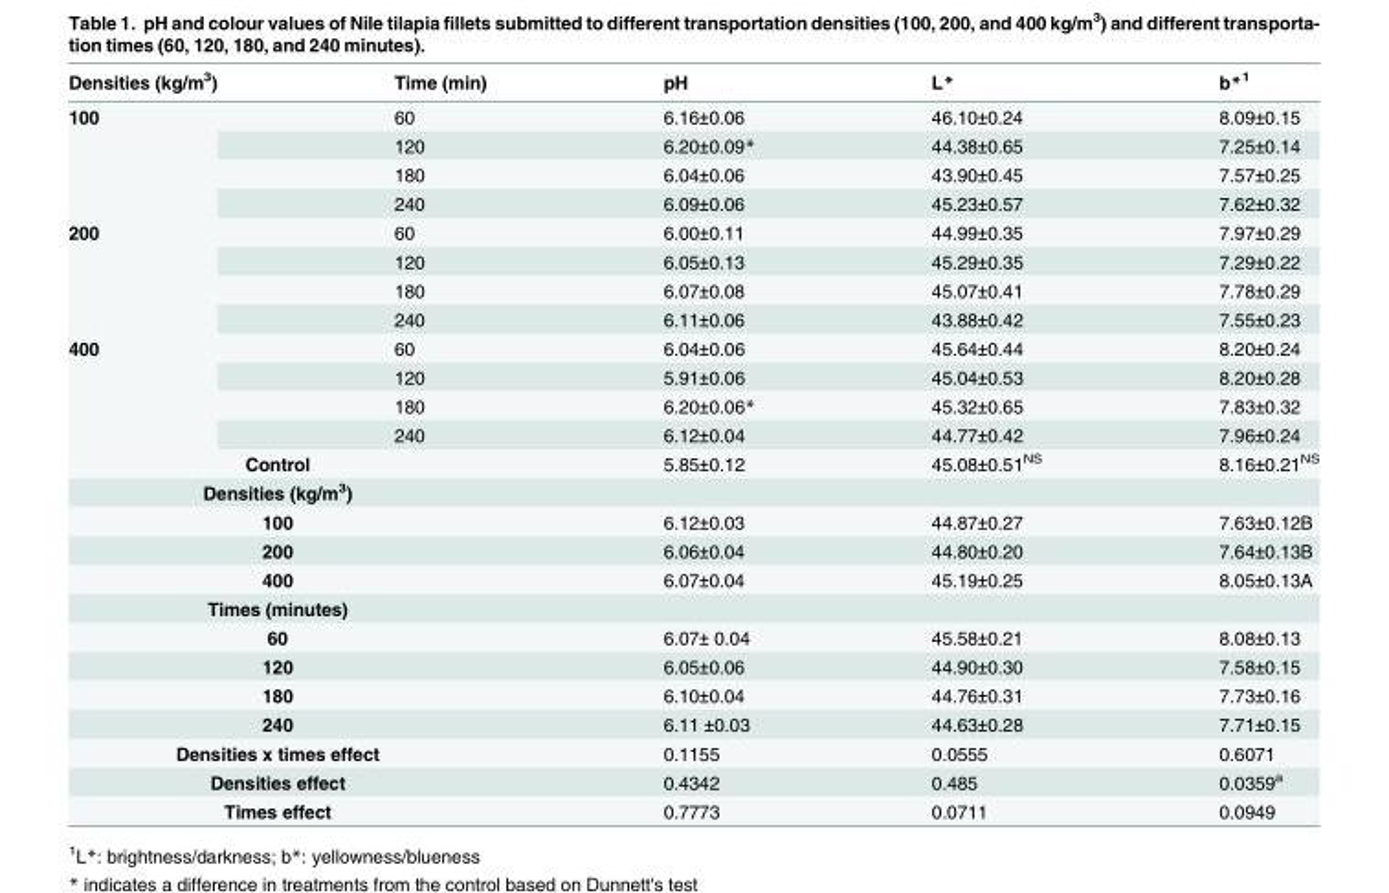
<table><thead><tr><td>Densities (kg/m<sup>3</sup>)</td><td>Time (min)</td><td>pH</td><td>L*</td><td>b*<sup>1</sup></td></tr></thead><tbody><tr><td rowspan="4">100</td><td>60</td><td>6.16±0.06</td><td>46.10±0.24</td><td>8.09±0.15</td></tr><tr><td>120</td><td>6.20±0.09*</td><td>44.38±0.65</td><td>7.25±0.14</td></tr><tr><td>180</td><td>6.04±0.06</td><td>43.90±0.45</td><td>7.57±0.25</td></tr><tr><td>240</td><td>6.09±0.06</td><td>45.23±0.57</td><td>7.62±0.32</td></tr><tr><td rowspan="4">200</td><td>60</td><td>6.00±0.11</td><td>44.99±0.35</td><td>7.97±0.29</td></tr><tr><td>120</td><td>6.05±0.13</td><td>45.29±0.35</td><td>7.29±0.22</td></tr><tr><td>180</td><td>6.07±0.08</td><td>45.07±0.41</td><td>7.78±0.29</td></tr><tr><td>240</td><td>6.11±0.06</td><td>43.88±0.42</td><td>7.55±0.23</td></tr><tr><td rowspan="4">400</td><td>60</td><td>6.04±0.06</td><td>45.64±0.44</td><td>8.20±0.24</td></tr><tr><td>120</td><td>5.91±0.06</td><td>45.04±0.53</td><td>8.20±0.28</td></tr><tr><td>180</td><td>6.20±0.06*</td><td>45.32±0.65</td><td>7.83±0.32</td></tr><tr><td>240</td><td>6.12±0.04</td><td>44.77±0.42</td><td>7.96±0.24</td></tr><tr><td colspan="2">Control</td><td>5.85±0.12</td><td>45.08±0.51<sup>NS</sup></td><td>8.16±0.21<sup>NS</sup></td></tr><tr><td colspan="5">Densities (kg/m<sup>3</sup>)</td></tr><tr><td colspan="2">100</td><td>6.12±0.03</td><td>44.87±0.27</td><td>7.63±0.12B</td></tr><tr><td colspan="2">200</td><td>6.06±0.04</td><td>44.80±0.20</td><td>7.64±0.13B</td></tr><tr><td colspan="2">400</td><td>6.07±0.04</td><td>45.19±0.25</td><td>8.05±0.13A</td></tr><tr><td colspan="5">Times (minutes)</td></tr><tr><td colspan="2">60</td><td>6.07± 0.04</td><td>45.58±0.21</td><td>8.08±0.13</td></tr><tr><td colspan="2">120</td><td>6.05±0.06</td><td>44.90±0.30</td><td>7.58±0.15</td></tr><tr><td colspan="2">180</td><td>6.10±0.04</td><td>44.76±0.31</td><td>7.73±0.16</td></tr><tr><td colspan="2">240</td><td>6.11 ±0.03</td><td>44.63±0.28</td><td>7.71±0.15</td></tr><tr><td colspan="2">Densities x times effect</td><td>0.1155</td><td>0.0555</td><td>0.6071</td></tr><tr><td colspan="2">Densities effect</td><td>0.4342</td><td>0.485</td><td>0.0359<sup>a</sup></td></tr><tr><td colspan="2">Times effect</td><td>0.7773</td><td>0.0711</td><td>0.0949</td></tr></tbody></table>